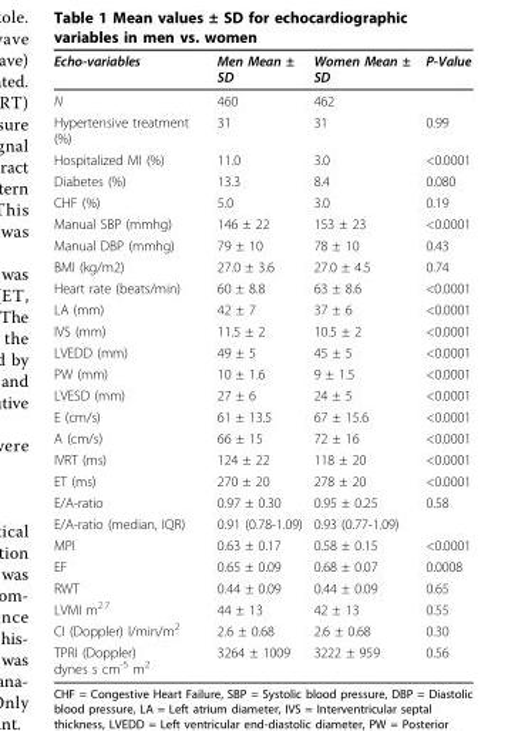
<table><thead><tr><td>Echo-variables</td><td>Men Mean ± SD</td><td>Women Mean ± SD</td><td>P-Value</td></tr></thead><tbody><tr><td>N</td><td>460</td><td>462</td><td></td></tr><tr><td>Hypertensive treatment (%)</td><td>31</td><td>31</td><td>0.99</td></tr><tr><td>Hospitalized MI (%)</td><td>11.0</td><td>3.0</td><td>&lt;0.0001</td></tr><tr><td>Diabetes (%)</td><td>13.3</td><td>8.4</td><td>0.080</td></tr><tr><td>CHF (%)</td><td>5.0</td><td>3.0</td><td>0.19</td></tr><tr><td>Manual SBP (mmhg)</td><td>146 ± 22</td><td>153 ± 23</td><td>&lt;0.0001</td></tr><tr><td>Manual DBP (mmhg)</td><td>79 ± 10</td><td>78 ± 10</td><td>0.43</td></tr><tr><td>BMI (kg/m2)</td><td>27.0 ± 3.6</td><td>27.0 ± 4.5</td><td>0.74</td></tr><tr><td>Heart rate (beats/min)</td><td>60 ± 8.8</td><td>63 ± 8.6</td><td>&lt;0.0001</td></tr><tr><td>LA (mm)</td><td>42 ± 7</td><td>37 ± 6</td><td>&lt;0.0001</td></tr><tr><td>IVS (mm)</td><td>11.5 ± 2</td><td>10.5 ± 2</td><td>&lt;0.0001</td></tr><tr><td>LVEDD (mm)</td><td>49 ± 5</td><td>45 ± 5</td><td>&lt;0.0001</td></tr><tr><td>PW (mm)</td><td>10 ± 1.6</td><td>9 ± 1.5</td><td>&lt;0.0001</td></tr><tr><td>LVESD (mm)</td><td>27 ± 6</td><td>24 ± 5</td><td>&lt;0.0001</td></tr><tr><td>E (cm/s)</td><td>61 ± 13.5</td><td>67 ± 15.6</td><td>&lt;0.0001</td></tr><tr><td>A (cm/s)</td><td>66 ± 15</td><td>72 ± 16</td><td>&lt;0.0001</td></tr><tr><td>IVRT (ms)</td><td>124 ± 22</td><td>118 ± 20</td><td>&lt;0.0001</td></tr><tr><td>ET (ms)</td><td>270 ± 20</td><td>278 ± 20</td><td>&lt;0.0001</td></tr><tr><td>E/A-ratio</td><td>0.97 ± 0.30</td><td>0.95 ± 0.25</td><td>0.58</td></tr><tr><td>E/A-ratio (median, IQR)</td><td>0.91 (0.78-1.09)</td><td>0.93 (0.77-1.09)</td><td></td></tr><tr><td>MPI</td><td>0.63 ± 0.17</td><td>0.58 ± 0.15</td><td>&lt;0.0001</td></tr><tr><td>EF</td><td>0.65 ± 0.09</td><td>0.68 ± 0.07</td><td>0.0008</td></tr><tr><td>RWT</td><td>0.44 ± 0.09</td><td>0.44 ± 0.09</td><td>0.65</td></tr><tr><td>LVMI m<sup>2.7</sup></td><td>44 ± 13</td><td>42 ± 13</td><td>0.55</td></tr><tr><td>CI (Doppler) l/min/m<sup>2</sup></td><td>2.6 ± 0.68</td><td>2.6 ± 0.68</td><td>0.30</td></tr><tr><td>TPRI (Doppler) dynes s cm<sup>-5</sup> m<sup>2</sup></td><td>3264 ± 1009</td><td>3222 ± 959</td><td>0.56</td></tr></tbody></table>